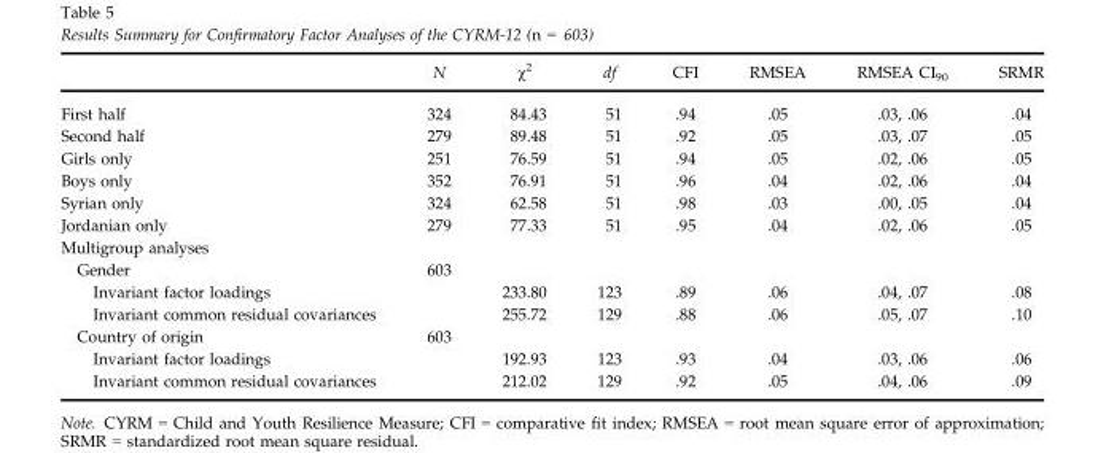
<table><thead><tr><td></td><td>N</td><td>χ<sup>2</sup></td><td>df</td><td>CFI</td><td>RMSEA</td><td>RMSEA CI<sub>90</sub></td><td>SRMR</td></tr></thead><tbody><tr><td>First half</td><td>324</td><td>84.43</td><td>51</td><td>.94</td><td>.05</td><td>.03, .06</td><td>.04</td></tr><tr><td>Second half</td><td>279</td><td>89.48</td><td>51</td><td>.92</td><td>.05</td><td>.03, .07</td><td>.05</td></tr><tr><td>Girls only</td><td>251</td><td>76.59</td><td>51</td><td>.94</td><td>.05</td><td>.02, .06</td><td>.05</td></tr><tr><td>Boys only</td><td>352</td><td>76.91</td><td>51</td><td>.96</td><td>.04</td><td>.02, .06</td><td>.04</td></tr><tr><td>Syrian only</td><td>324</td><td>62.58</td><td>51</td><td>.98</td><td>.03</td><td>.00, .05</td><td>.04</td></tr><tr><td>Jordanian only</td><td>279</td><td>77.33</td><td>51</td><td>.95</td><td>.04</td><td>.02, .06</td><td>.05</td></tr><tr><td colspan="8">Multigroup analyses</td></tr><tr><td>Gender</td><td>603</td><td></td><td></td><td></td><td></td><td></td><td></td></tr><tr><td>Invariant factor loadings</td><td></td><td>233.80</td><td>123</td><td>.89</td><td>.06</td><td>.04, .07</td><td>.08</td></tr><tr><td>Invariant common residual covariances</td><td></td><td>255.72</td><td>129</td><td>.88</td><td>.06</td><td>.05, .07</td><td>.10</td></tr><tr><td>Country of origin</td><td>603</td><td></td><td></td><td></td><td></td><td></td><td></td></tr><tr><td>Invariant factor loadings</td><td></td><td>192.93</td><td>123</td><td>.93</td><td>.04</td><td>.03, .06</td><td>.06</td></tr><tr><td>Invariant common residual covariances</td><td></td><td>212.02</td><td>129</td><td>.92</td><td>.05</td><td>.04, .06</td><td>.09</td></tr></tbody></table>